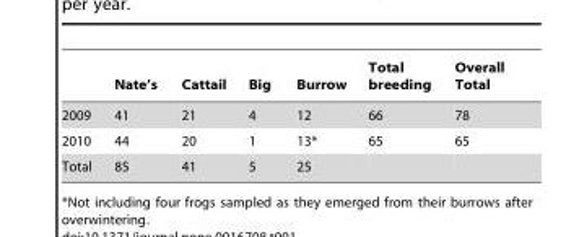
<table><thead><tr><td></td><td>Nate’s</td><td>Cattail</td><td>Big</td><td>Burrow</td><td>Total breeding</td><td>Overall Total</td></tr></thead><tbody><tr><td>2009</td><td>41</td><td>21</td><td>4</td><td>12</td><td>66</td><td>78</td></tr><tr><td>2010</td><td>44</td><td>20</td><td>1</td><td>13*</td><td>65</td><td>65</td></tr><tr><td>Total</td><td>85</td><td>41</td><td>5</td><td>25</td><td></td><td></td></tr></tbody></table>